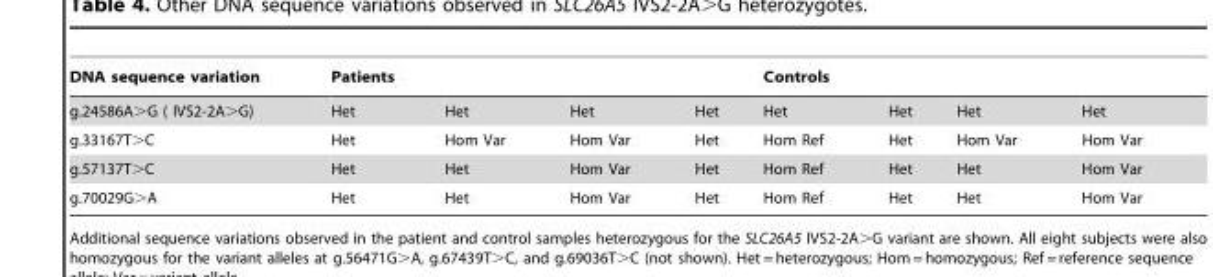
<table><thead><tr><td rowspan="2">DNA sequence variation g.24586A&gt;G ( IVS2-2A&gt;G)</td><td colspan="4">Patients</td><td colspan="4">Controls</td></tr><tr><td>Het</td><td>Het</td><td>Het</td><td>Het</td><td>Het</td><td>Het</td><td>Het</td><td>Het</td></tr></thead><tbody><tr><td>g.33167T&gt;C</td><td>Het</td><td>Hom Var</td><td>Hom Var</td><td>Het</td><td>Hom Ref</td><td>Het</td><td>Hom Var</td><td>Hom Var</td></tr><tr><td>g.57137T&gt;C</td><td>Het</td><td>Het</td><td>Hom Var</td><td>Het</td><td>Hom Ref</td><td>Het</td><td>Het</td><td>Hom Var</td></tr><tr><td>g.70029G&gt;A</td><td>Het</td><td>Het</td><td>Hom Var</td><td>Het</td><td>Hom Ref</td><td>Het</td><td>Het</td><td>Hom Var</td></tr></tbody></table>